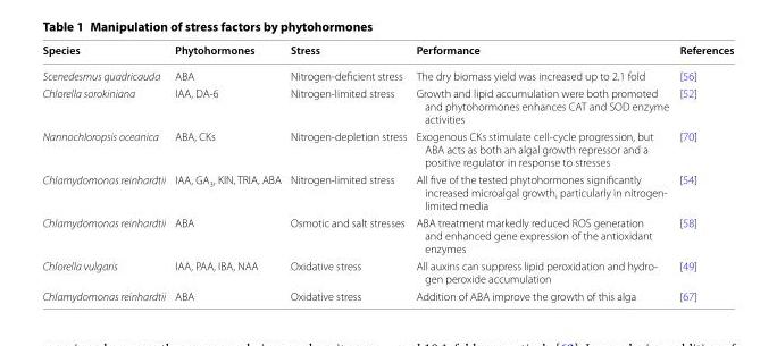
<table><thead><tr><td>Species</td><td>Phytohormones</td><td>Stress</td><td>Performance</td><td>References</td></tr></thead><tbody><tr><td>Scenedesmus quadricauda</td><td>ABA</td><td>Nitrogen‑deficient stress</td><td>The dry biomass yield was increased up to 2.1 fold</td><td>[56]</td></tr><tr><td>Chlorella sorokiniana</td><td>IAA, DA‑6</td><td>Nitrogen‑limited stress</td><td>Growth and lipid accumulation were both promoted and phytohormones enhances CAT and SOD enzyme activities</td><td>[52]</td></tr><tr><td>Nannochloropsis oceanica</td><td>ABA, CKs</td><td>Nitrogen‑depletion stress</td><td>Exogenous CKs stimulate cell‑cycle progression, but ABA acts as both an algal growth repressor and a positive regulator in response to stresses</td><td>[70]</td></tr><tr><td>Chlamydomonas reinhardtii</td><td>IAA, GA<sub>3</sub>, KIN, TRIA, ABA</td><td>Nitrogen‑limited stress</td><td>All five of the tested phytohormones significantly increased microalgal growth, particularly in nitrogen‑ limited media</td><td>[54]</td></tr><tr><td>Chlamydomonas reinhardtii</td><td>ABA</td><td>Osmotic and salt stresses</td><td>ABA treatment markedly reduced ROS generation and enhanced gene expression of the antioxidant enzymes</td><td>[58]</td></tr><tr><td>Chlorella vulgaris</td><td>IAA, PAA, IBA, NAA</td><td>Oxidative stress</td><td>All auxins can suppress lipid peroxidation and hydro‑ gen peroxide accumulation</td><td>[49]</td></tr><tr><td>Chlamydomonas reinhardtii</td><td>ABA</td><td>Oxidative stress</td><td>Addition of ABA improve the growth of this alga</td><td>[67]</td></tr></tbody></table>